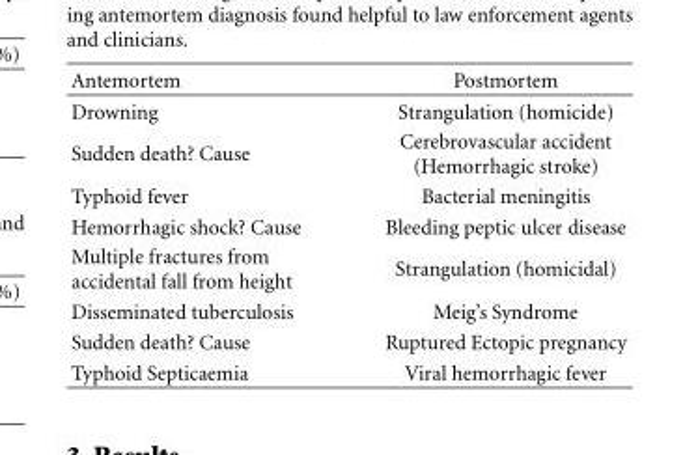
<table><thead><tr><td>Antemortem</td><td>Postmortem</td></tr></thead><tbody><tr><td>Drowning</td><td>Strangulation (homicide)</td></tr><tr><td>Sudden death? Cause</td><td>Cerebrovascular accident (Hemorrhagic stroke)</td></tr><tr><td>Typhoid fever</td><td>Bacterial meningitis</td></tr><tr><td>Hemorrhagic shock? Cause</td><td>Bleeding peptic ulcer disease</td></tr><tr><td>Multiple fractures from accidental fall from height</td><td>Strangulation (homicidal)</td></tr><tr><td>Disseminated tuberculosis</td><td>Meig’s Syndrome</td></tr><tr><td>Sudden death? Cause</td><td>Ruptured Ectopic pregnancy</td></tr><tr><td>Typhoid Septicaemia</td><td>Viral hemorrhagic fever</td></tr></tbody></table>